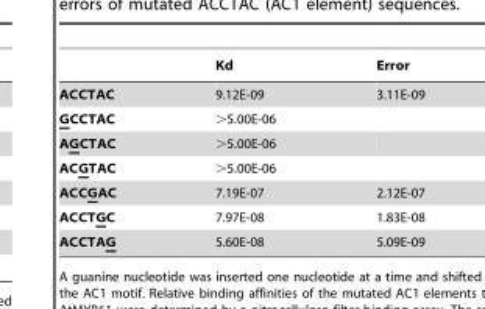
<table><thead><tr><td></td><td>Kd</td><td>Error</td></tr></thead><tbody><tr><td>ACCTAC</td><td>9.12E-09</td><td>3.11E-09</td></tr><tr><td>GCCTAC</td><td>&gt;5.00E-06</td><td></td></tr><tr><td>AGCTAC</td><td>&gt;5.00E-06</td><td></td></tr><tr><td>ACGTAC</td><td>&gt;5.00E-06</td><td></td></tr><tr><td>ACCGAC</td><td>7.19E-07</td><td>2.12E-07</td></tr><tr><td>ACCTGC</td><td>7.97E-08</td><td>1.83E-08</td></tr><tr><td>ACCTAG</td><td>5.60E-08</td><td>5.09E-09</td></tr></tbody></table>